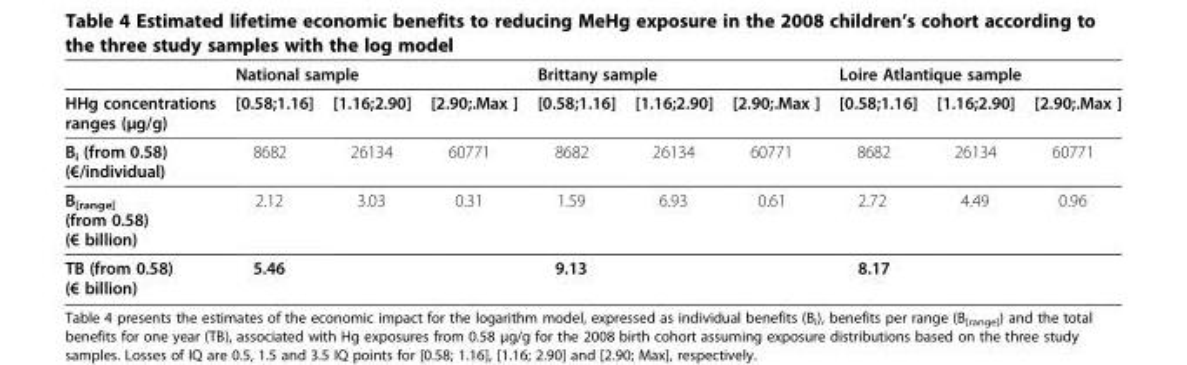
<table><thead><tr><td rowspan="2">HHg concentrations ranges (μg/g)</td><td colspan="3">National sample</td><td colspan="3">Brittany sample</td><td colspan="3">Loire Atlantique sample</td></tr><tr><td>[0.58;1.16]</td><td>[1.16;2.90]</td><td>[2.90;.Max ]</td><td>[0.58;1.16]</td><td>[1.16;2.90]</td><td>[2.90;.Max ]</td><td>[0.58;1.16]</td><td>[1.16;2.90]</td><td>[2.90;.Max ]</td></tr></thead><tbody><tr><td>B<sub>i</sub> (from 0.58) (€/individual)</td><td>8682</td><td>26134</td><td>60771</td><td>8682</td><td>26134</td><td>60771</td><td>8682</td><td>26134</td><td>60771</td></tr><tr><td>B<sub>[range[</sub> (from 0.58) (€ billion)</td><td>2.12</td><td>3.03</td><td>0.31</td><td>1.59</td><td>6.93</td><td>0.61</td><td>2.72</td><td>4.49</td><td>0.96</td></tr><tr><td>TB (from 0.58) (€ billion)</td><td colspan="3">5.46</td><td colspan="3">9.13</td><td colspan="3">8.17</td></tr></tbody></table>